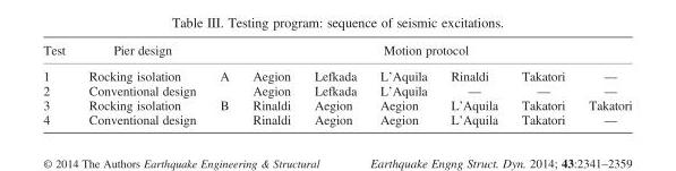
<table><thead><tr><td rowspan="2">Test 1</td><td rowspan="2">Pier design Rocking isolation</td><td colspan="7">Motion protocol</td></tr><tr><td>A</td><td>Aegion</td><td>Lefkada</td><td>L’Aquila</td><td>Rinaldi</td><td>Takatori</td><td>—</td></tr></thead><tbody><tr><td>2</td><td>Conventional design</td><td></td><td>Aegion</td><td>Lefkada</td><td>L’Aquila</td><td>—</td><td>—</td><td>—</td></tr><tr><td>3</td><td>Rocking isolation</td><td>B</td><td>Rinaldi</td><td>Aegion</td><td>Aegion</td><td>L’Aquila</td><td>Takatori</td><td>Takatori</td></tr><tr><td>4</td><td>Conventional design</td><td></td><td>Rinaldi</td><td>Aegion</td><td>Aegion</td><td>L’Aquila</td><td>Takatori</td><td>—</td></tr></tbody></table>